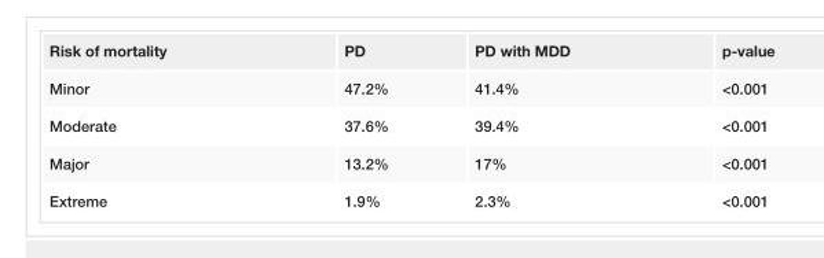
<table><tbody><tr><td>Risk of mortality</td><td>PD</td><td>PD with MDD</td><td>p-value</td></tr><tr><td>Minor</td><td>47.2%</td><td>41.4%</td><td>&lt;0.001</td></tr><tr><td>Moderate</td><td>37.6%</td><td>39.4%</td><td>&lt;0.001</td></tr><tr><td>Major</td><td>13.2%</td><td>17%</td><td>&lt;0.001</td></tr><tr><td>Extreme</td><td>1.9%</td><td>2.3%</td><td>&lt;0.001</td></tr></tbody></table>